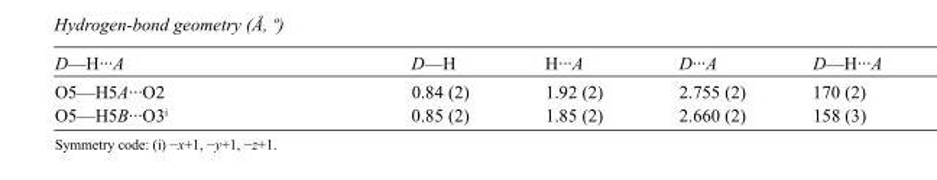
<table><tbody><tr><td>D—H···A</td><td>D—H</td><td>H···A</td><td>D···A</td><td>D—H···A</td></tr><tr><td>O5—H5A···O2</td><td>0.84 (2)</td><td>1.92 (2)</td><td>2.755 (2)</td><td>170 (2)</td></tr><tr><td>O5—H5B···O3<sup>i</sup></td><td>0.85 (2)</td><td>1.85 (2)</td><td>2.660 (2)</td><td>158 (3)</td></tr></tbody></table>